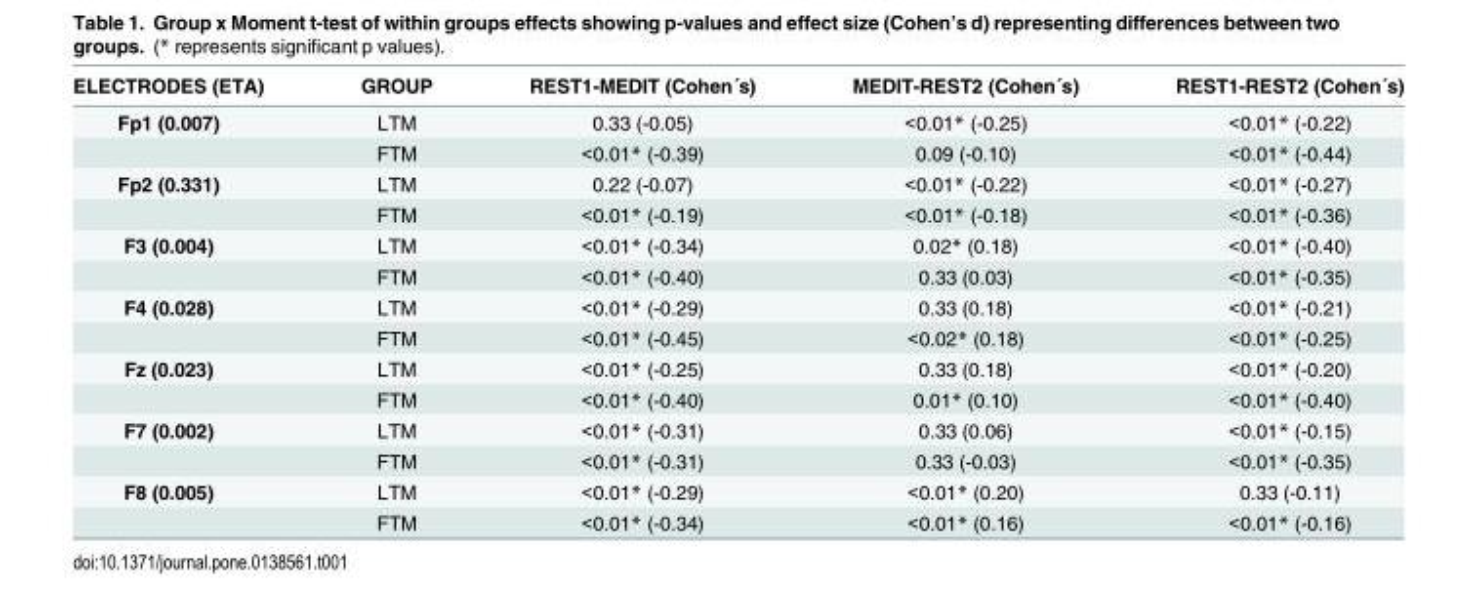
<table><thead><tr><td>ELECTRODES (ETA)</td><td>GROUP</td><td>REST1-MEDIT (Cohen´s)</td><td>MEDIT-REST2 (Cohen´s)</td><td>REST1-REST2 (Cohen´s)</td></tr></thead><tbody><tr><td rowspan="2">Fp1 (0.007)</td><td>LTM</td><td>0.33 (-0.05)</td><td>&lt;0.01* (-0.25)</td><td>&lt;0.01* (-0.22)</td></tr><tr><td>FTM</td><td>&lt;0.01* (-0.39)</td><td>0.09 (-0.10)</td><td>&lt;0.01* (-0.44)</td></tr><tr><td rowspan="2">Fp2 (0.331)</td><td>LTM</td><td>0.22 (-0.07)</td><td>&lt;0.01* (-0.22)</td><td>&lt;0.01* (-0.27)</td></tr><tr><td>FTM</td><td>&lt;0.01* (-0.19)</td><td>&lt;0.01* (-0.18)</td><td>&lt;0.01* (-0.36)</td></tr><tr><td rowspan="2">F3 (0.004)</td><td>LTM</td><td>&lt;0.01* (-0.34)</td><td>0.02* (0.18)</td><td>&lt;0.01* (-0.40)</td></tr><tr><td>FTM</td><td>&lt;0.01* (-0.40)</td><td>0.33 (0.03)</td><td>&lt;0.01* (-0.35)</td></tr><tr><td rowspan="2">F4 (0.028)</td><td>LTM</td><td>&lt;0.01* (-0.29)</td><td>0.33 (0.18)</td><td>&lt;0.01* (-0.21)</td></tr><tr><td>FTM</td><td>&lt;0.01* (-0.45)</td><td>&lt;0.02* (0.18)</td><td>&lt;0.01* (-0.25)</td></tr><tr><td rowspan="2">Fz (0.023)</td><td>LTM</td><td>&lt;0.01* (-0.25)</td><td>0.33 (0.18)</td><td>&lt;0.01* (-0.20)</td></tr><tr><td>FTM</td><td>&lt;0.01* (-0.40)</td><td>0.01* (0.10)</td><td>&lt;0.01* (-0.40)</td></tr><tr><td rowspan="2">F7 (0.002)</td><td>LTM</td><td>&lt;0.01* (-0.31)</td><td>0.33 (0.06)</td><td>&lt;0.01* (-0.15)</td></tr><tr><td>FTM</td><td>&lt;0.01* (-0.31)</td><td>0.33 (-0.03)</td><td>&lt;0.01* (-0.35)</td></tr><tr><td rowspan="2">F8 (0.005)</td><td>LTM</td><td>&lt;0.01* (-0.29)</td><td>&lt;0.01* (0.20)</td><td>0.33 (-0.11)</td></tr><tr><td>FTM</td><td>&lt;0.01* (-0.34)</td><td>&lt;0.01* (0.16)</td><td>&lt;0.01* (-0.16)</td></tr></tbody></table>